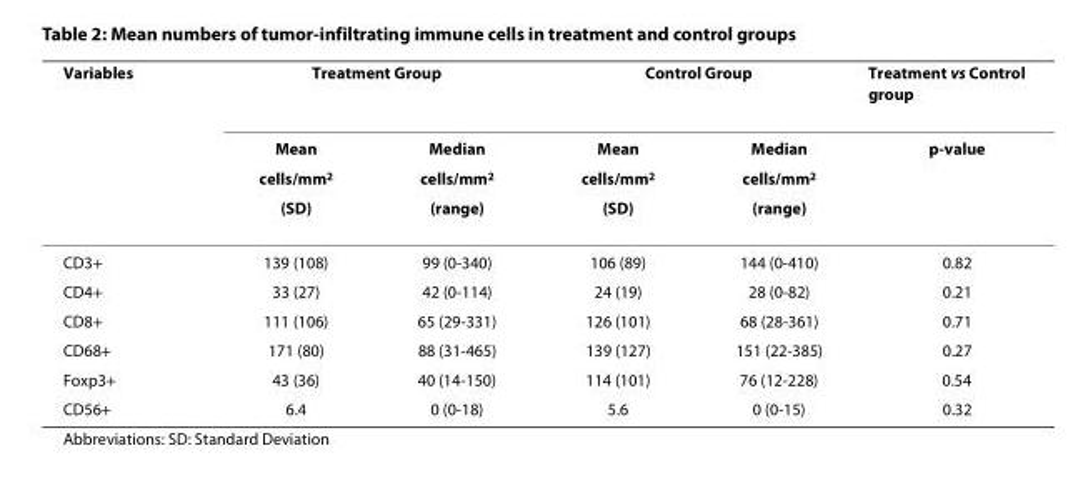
<table><thead><tr><td rowspan="4">Variables</td><td colspan="2">Treatment Group</td><td colspan="2">Control Group</td><td rowspan="4">Treatment vs Control group p-value</td></tr><tr><td rowspan="3">Mean cells/mm<sup>2</sup> (SD)</td><td rowspan="3">Median cells/mm<sup>2</sup> (range)</td><td rowspan="3">Mean cells/mm<sup>2</sup> (SD)</td><td rowspan="3">Median cells/mm<sup>2</sup> (range)</td></tr><tr></tr><tr></tr></thead><tbody><tr><td>CD3+</td><td>139 (108)</td><td>99 (0-340)</td><td>106 (89)</td><td>144 (0-410)</td><td>0.82</td></tr><tr><td>CD4+</td><td>33 (27)</td><td>42 (0-114)</td><td>24 (19)</td><td>28 (0-82)</td><td>0.21</td></tr><tr><td>CD8+</td><td>111 (106)</td><td>65 (29-331)</td><td>126 (101)</td><td>68 (28-361)</td><td>0.71</td></tr><tr><td>CD68+</td><td>171 (80)</td><td>88 (31-465)</td><td>139 (127)</td><td>151 (22-385)</td><td>0.27</td></tr><tr><td>Foxp3+</td><td>43 (36)</td><td>40 (14-150)</td><td>114 (101)</td><td>76 (12-228)</td><td>0.54</td></tr><tr><td>CD56+</td><td>6.4</td><td>0 (0-18)</td><td>5.6</td><td>0 (0-15)</td><td>0.32</td></tr></tbody></table>